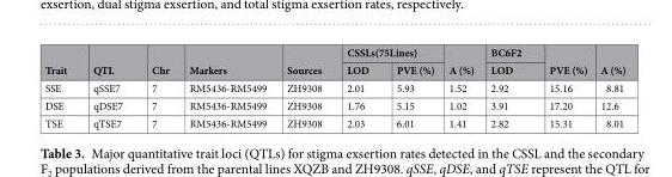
<table><thead><tr><td rowspan="2">Trait</td><td rowspan="2">QTL</td><td rowspan="2">Chr</td><td rowspan="2">Markers</td><td rowspan="2">Sources</td><td colspan="2">CSSLs(75Lines)</td><td rowspan="2">A (%)</td><td rowspan="2">BC6F2 LOD</td><td rowspan="2">PVE (%)</td><td rowspan="2">A (%)</td></tr><tr><td>LOD</td><td>PVE (%)</td></tr></thead><tbody><tr><td>SSE</td><td>qSSE7</td><td>7</td><td>RM5436-RM5499</td><td>ZH9308</td><td>2.01</td><td>5.93</td><td>1.52</td><td>2.92</td><td>15.16</td><td>8.81</td></tr><tr><td>DSE</td><td>qDSE7</td><td>7</td><td>RM5436-RM5499</td><td>ZH9308</td><td>1.76</td><td>5.15</td><td>1.02</td><td>3.91</td><td>17.20</td><td>12.6</td></tr><tr><td>TSE</td><td>qTSE7</td><td>7</td><td>RM5436-RM5499</td><td>ZH9308</td><td>2.03</td><td>6.01</td><td>1.41</td><td>2.82</td><td>15.31</td><td>8.01</td></tr></tbody></table>